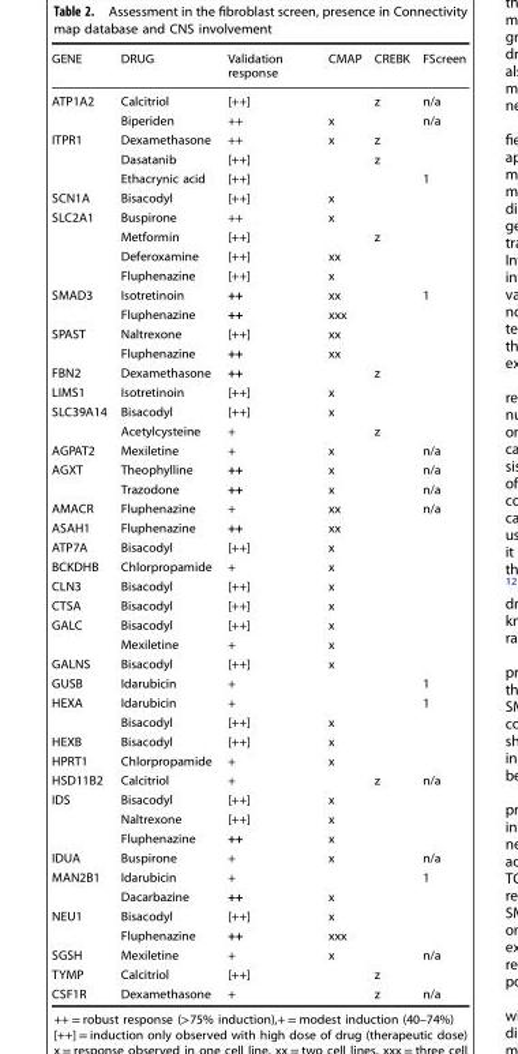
<table><thead><tr><td>GENE</td><td>DRUG</td><td>Validation response</td><td>CMAP</td><td>CREBK</td><td>FScreen</td></tr></thead><tbody><tr><td rowspan="2">ATP1A2</td><td>Calcitriol</td><td>[++]</td><td></td><td>z</td><td>n/a</td></tr><tr><td>Biperiden</td><td>++</td><td>x</td><td></td><td>n/a</td></tr><tr><td rowspan="3">ITPR1</td><td>Dexamethasone</td><td>++</td><td>x</td><td>z</td><td></td></tr><tr><td>Dasatanib</td><td>[++]</td><td></td><td>z</td><td></td></tr><tr><td>Ethacrynic acid</td><td>[++]</td><td></td><td></td><td>1</td></tr><tr><td>SCN1A</td><td>Bisacodyl</td><td>[++]</td><td>x</td><td></td><td></td></tr><tr><td rowspan="4">SLC2A1</td><td>Buspirone</td><td>++</td><td>x</td><td></td><td></td></tr><tr><td>Metformin</td><td>[++]</td><td></td><td>z</td><td></td></tr><tr><td>Deferoxamine</td><td>[++]</td><td>xx</td><td></td><td></td></tr><tr><td>Fluphenazine</td><td>[++]</td><td>x</td><td></td><td></td></tr><tr><td rowspan="2">SMAD3</td><td>Isotretinoin</td><td>++</td><td>xx</td><td></td><td>1</td></tr><tr><td>Fluphenazine</td><td>++</td><td>xxx</td><td></td><td></td></tr><tr><td rowspan="2">SPAST</td><td>Naltrexone</td><td>[++]</td><td>xx</td><td></td><td></td></tr><tr><td>Fluphenazine</td><td>++</td><td>xx</td><td></td><td></td></tr><tr><td>FBN2</td><td>Dexamethasone</td><td>++</td><td></td><td>z</td><td></td></tr><tr><td>LIMS1</td><td>Isotretinoin</td><td>[++]</td><td>x</td><td></td><td></td></tr><tr><td rowspan="2">SLC39A14</td><td>Bisacodyl</td><td>[++]</td><td>x</td><td></td><td></td></tr><tr><td>Acetylcysteine</td><td>+</td><td></td><td>z</td><td></td></tr><tr><td>AGPAT2</td><td>Mexiletine</td><td>+</td><td>x</td><td></td><td>n/a</td></tr><tr><td rowspan="2">AGXT</td><td>Theophylline</td><td>++</td><td>x</td><td></td><td>n/a</td></tr><tr><td>Trazodone</td><td>++</td><td>x</td><td></td><td>n/a</td></tr><tr><td>AMACR</td><td>Fluphenazine</td><td>+</td><td>xx</td><td></td><td>n/a</td></tr><tr><td>ASAH1</td><td>Fluphenazine</td><td>++</td><td>xx</td><td></td><td></td></tr><tr><td>ATP7A</td><td>Bisacodyl</td><td>[++]</td><td>x</td><td></td><td></td></tr><tr><td>BCKDHB</td><td>Chlorpropamide</td><td>+</td><td>x</td><td></td><td></td></tr><tr><td>CLN3</td><td>Bisacodyl</td><td>[++]</td><td>x</td><td></td><td></td></tr><tr><td>CTSA</td><td>Bisacodyl</td><td>[++]</td><td>x</td><td></td><td></td></tr><tr><td rowspan="2">GALC</td><td>Bisacodyl</td><td>[++]</td><td>x</td><td></td><td></td></tr><tr><td>Mexiletine</td><td>+</td><td>x</td><td></td><td></td></tr><tr><td>GALNS</td><td>Bisacodyl</td><td>[++]</td><td>x</td><td></td><td></td></tr><tr><td>GUSB</td><td>Idarubicin</td><td>+</td><td></td><td></td><td>1</td></tr><tr><td rowspan="2">HEXA</td><td>Idarubicin</td><td>+</td><td></td><td></td><td>1</td></tr><tr><td>Bisacodyl</td><td>[++]</td><td>x</td><td></td><td></td></tr><tr><td>HEXB</td><td>Bisacodyl</td><td>[++]</td><td>x</td><td></td><td></td></tr><tr><td>HPRT1</td><td>Chlorpropamide</td><td>+</td><td>x</td><td></td><td></td></tr><tr><td>HSD11B2</td><td>Calcitriol</td><td>+</td><td></td><td>z</td><td>n/a</td></tr><tr><td rowspan="3">IDS</td><td>Bisacodyl</td><td>[++]</td><td>x</td><td></td><td></td></tr><tr><td>Naltrexone</td><td>[++]</td><td>x</td><td></td><td></td></tr><tr><td>Fluphenazine</td><td>++</td><td>x</td><td></td><td></td></tr><tr><td>IDUA</td><td>Buspirone</td><td>+</td><td>x</td><td></td><td>n/a</td></tr><tr><td rowspan="2">MAN2B1</td><td>Idarubicin</td><td>+</td><td></td><td></td><td>1</td></tr><tr><td>Dacarbazine</td><td>++</td><td>x</td><td></td><td></td></tr><tr><td rowspan="2">NEU1</td><td>Bisacodyl</td><td>[++]</td><td>x</td><td></td><td></td></tr><tr><td>Fluphenazine</td><td>++</td><td>xxx</td><td></td><td></td></tr><tr><td>SGSH</td><td>Mexiletine</td><td>+</td><td>x</td><td></td><td>n/a</td></tr><tr><td>TYMP</td><td>Calcitriol</td><td>[++]</td><td></td><td>z</td><td></td></tr><tr><td>CSF1R</td><td>Dexamethasone</td><td>+</td><td></td><td>z</td><td>n/a</td></tr></tbody></table>